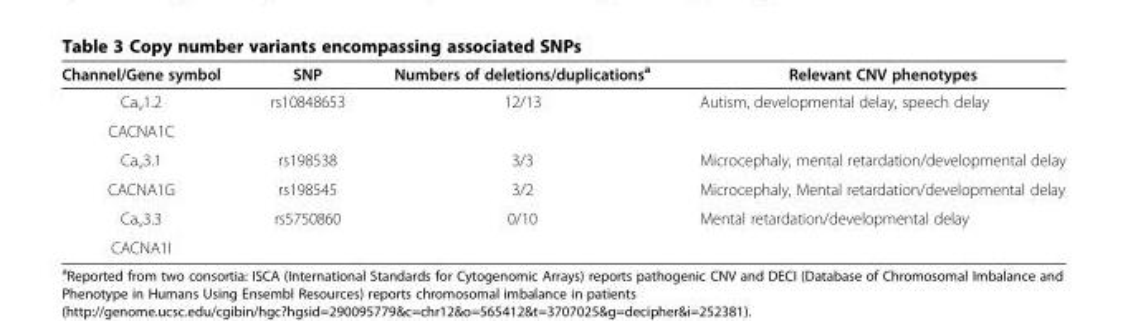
<table><thead><tr><td>Channel/Gene symbol</td><td>SNP</td><td>Numbers of deletions/duplications<sup>a</sup></td><td>Relevant CNV phenotypes</td></tr></thead><tbody><tr><td>Ca<sub>v</sub>1.2</td><td rowspan="2">rs10848653</td><td rowspan="2">12/13</td><td rowspan="2">Autism, developmental delay, speech delay</td></tr><tr><td>CACNA1C</td></tr><tr><td>Ca<sub>v</sub>3.1</td><td>rs198538</td><td>3/3</td><td>Microcephaly, mental retardation/developmental delay</td></tr><tr><td>CACNA1G</td><td>rs198545</td><td>3/2</td><td>Microcephaly, Mental retardation/developmental delay</td></tr><tr><td>Ca<sub>v</sub>3.3</td><td>rs5750860</td><td>0/10</td><td>Mental retardation/developmental delay</td></tr><tr><td>CACNA1I</td><td colspan="3"></td></tr></tbody></table>